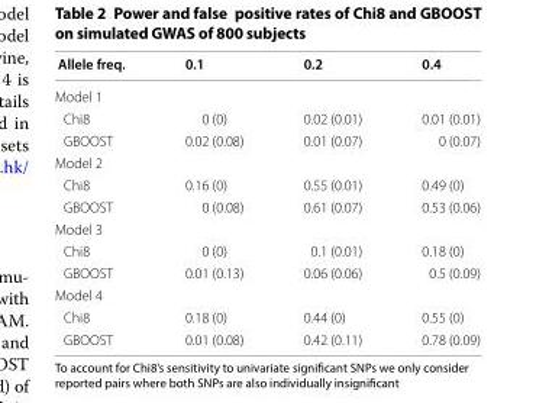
<table><thead><tr><td>Allele freq.</td><td>0.1</td><td>0.2</td><td>0.4</td></tr></thead><tbody><tr><td colspan="4">Model 1</td></tr><tr><td>Chi8</td><td>0 (0)</td><td>0.02 (0.01)</td><td>0.01 (0.01)</td></tr><tr><td>GBOOST</td><td>0.02 (0.08)</td><td>0.01 (0.07)</td><td>0 (0.07)</td></tr><tr><td colspan="4">Model 2</td></tr><tr><td>Chi8</td><td>0.16 (0)</td><td>0.55 (0.01)</td><td>0.49 (0)</td></tr><tr><td>GBOOST</td><td>0 (0.08)</td><td>0.61 (0.07)</td><td>0.53 (0.06)</td></tr><tr><td colspan="4">Model 3</td></tr><tr><td>Chi8</td><td>0 (0)</td><td>0.1 (0.01)</td><td>0.18 (0)</td></tr><tr><td>GBOOST</td><td>0.01 (0.13)</td><td>0.06 (0.06)</td><td>0.5 (0.09)</td></tr><tr><td colspan="4">Model 4</td></tr><tr><td>Chi8</td><td>0.18 (0)</td><td>0.44 (0)</td><td>0.55 (0)</td></tr><tr><td>GBOOST</td><td>0.01 (0.08)</td><td>0.42 (0.11)</td><td>0.78 (0.09)</td></tr></tbody></table>